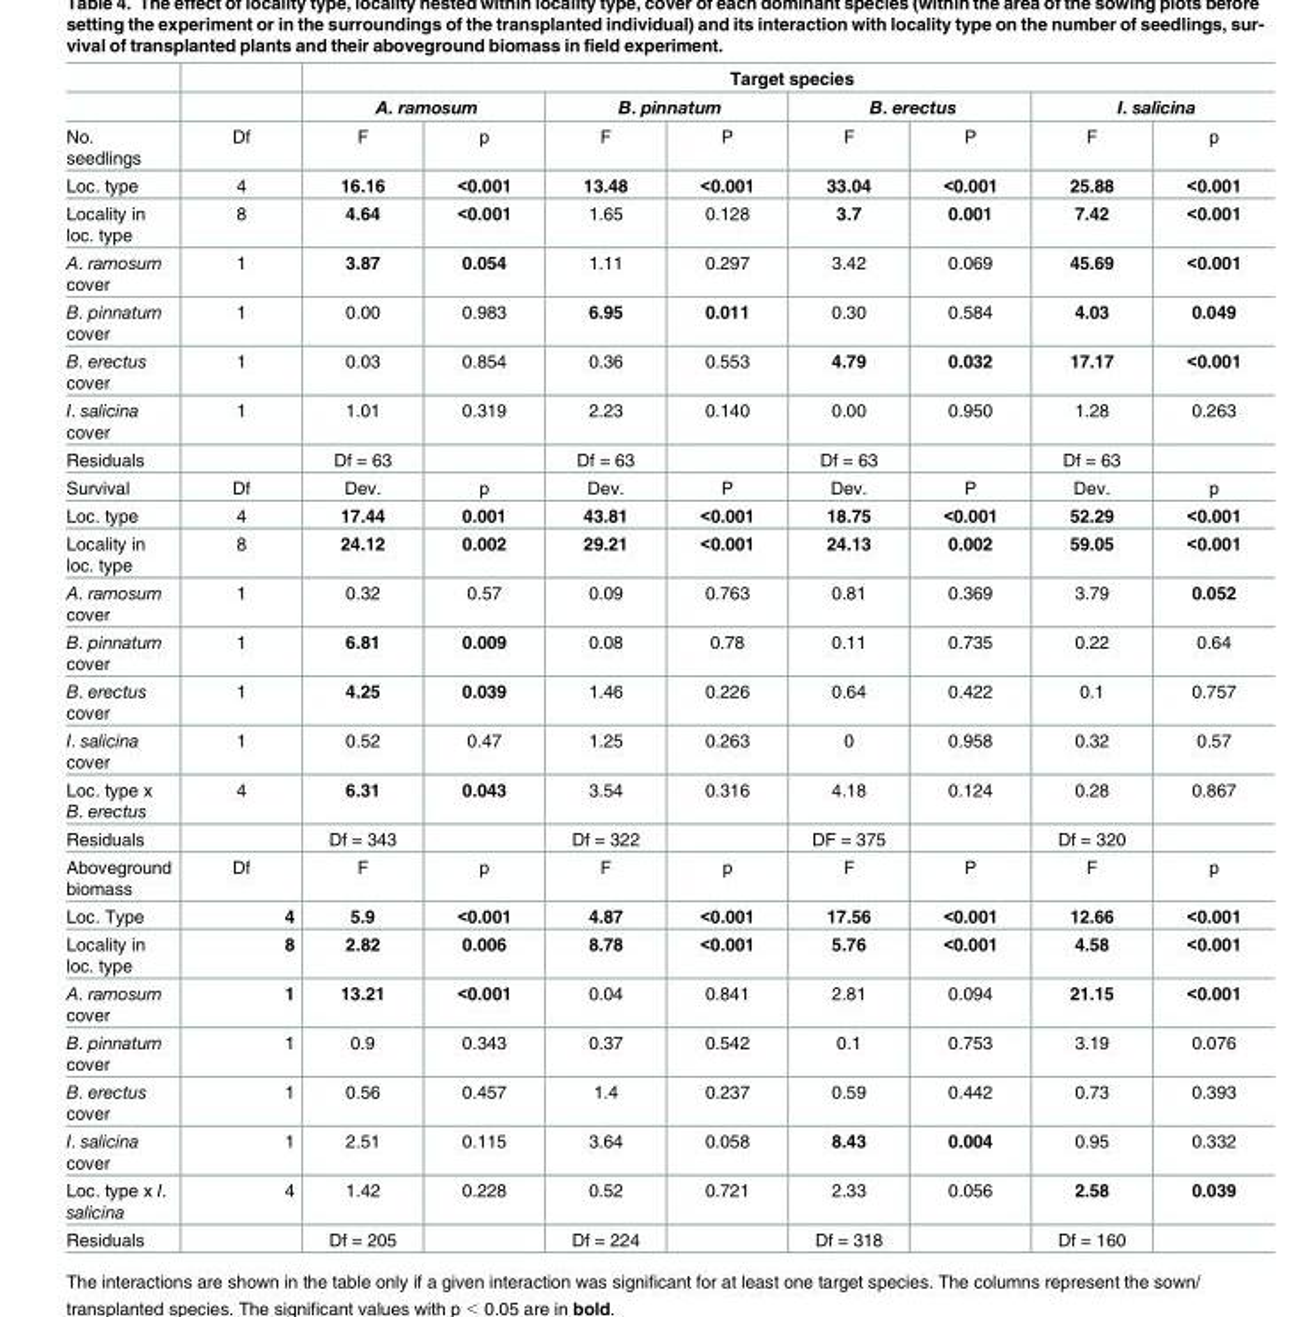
<table><thead><tr><td rowspan="3">No. seedlings</td><td rowspan="3">Df</td><td colspan="8">Target species</td></tr><tr><td colspan="2">A. ramosum</td><td colspan="2">B. pinnatum</td><td colspan="2">B. erectus</td><td colspan="2">I. salicina</td></tr><tr><td>F</td><td>p</td><td>F</td><td>P</td><td>F</td><td>P</td><td>F</td><td>p</td></tr></thead><tbody><tr><td>Loc. type</td><td>4</td><td>16.16</td><td>&lt;0.001</td><td>13.48</td><td>&lt;0.001</td><td>33.04</td><td>&lt;0.001</td><td>25.88</td><td>&lt;0.001</td></tr><tr><td>Locality in loc. type</td><td>8</td><td>4.64</td><td>&lt;0.001</td><td>1.65</td><td>0.128</td><td>3.7</td><td>0.001</td><td>7.42</td><td>&lt;0.001</td></tr><tr><td>A. ramosum cover</td><td>1</td><td>3.87</td><td>0.054</td><td>1.11</td><td>0.297</td><td>3.42</td><td>0.069</td><td>45.69</td><td>&lt;0.001</td></tr><tr><td>B. pinnatum cover</td><td>1</td><td>0.00</td><td>0.983</td><td>6.95</td><td>0.011</td><td>0.30</td><td>0.584</td><td>4.03</td><td>0.049</td></tr><tr><td>B. erectus cover</td><td>1</td><td>0.03</td><td>0.854</td><td>0.36</td><td>0.553</td><td>4.79</td><td>0.032</td><td>17.17</td><td>&lt;0.001</td></tr><tr><td>I. salicina cover</td><td>1</td><td>1.01</td><td>0.319</td><td>2.23</td><td>0.140</td><td>0.00</td><td>0.950</td><td>1.28</td><td>0.263</td></tr><tr><td>Residuals</td><td></td><td>Df = 63</td><td></td><td>Df = 63</td><td></td><td>Df = 63</td><td></td><td>Df = 63</td><td></td></tr><tr><td>Survival</td><td>Df</td><td>Dev.</td><td>p</td><td>Dev.</td><td>P</td><td>Dev.</td><td>P</td><td>Dev.</td><td>p</td></tr><tr><td>Loc. type</td><td>4</td><td>17.44</td><td>0.001</td><td>43.81</td><td>&lt;0.001</td><td>18.75</td><td>&lt;0.001</td><td>52.29</td><td>&lt;0.001</td></tr><tr><td>Locality in loc. type</td><td>8</td><td>24.12</td><td>0.002</td><td>29.21</td><td>&lt;0.001</td><td>24.13</td><td>0.002</td><td>59.05</td><td>&lt;0.001</td></tr><tr><td>A. ramosum cover</td><td>1</td><td>0.32</td><td>0.57</td><td>0.09</td><td>0.763</td><td>0.81</td><td>0.369</td><td>3.79</td><td>0.052</td></tr><tr><td>B. pinnatum cover</td><td>1</td><td>6.81</td><td>0.009</td><td>0.08</td><td>0.78</td><td>0.11</td><td>0.735</td><td>0.22</td><td>0.64</td></tr><tr><td>B. erectus cover</td><td>1</td><td>4.25</td><td>0.039</td><td>1.46</td><td>0.226</td><td>0.64</td><td>0.422</td><td>0.1</td><td>0.757</td></tr><tr><td>I. salicina cover</td><td>1</td><td>0.52</td><td>0.47</td><td>1.25</td><td>0.263</td><td>0</td><td>0.958</td><td>0.32</td><td>0.57</td></tr><tr><td>Loc. type x B. erectus</td><td>4</td><td>6.31</td><td>0.043</td><td>3.54</td><td>0.316</td><td>4.18</td><td>0.124</td><td>0.28</td><td>0.867</td></tr><tr><td>Residuals</td><td></td><td>Df = 343</td><td></td><td>Df = 322</td><td></td><td>DF = 375</td><td></td><td>Df = 320</td><td></td></tr><tr><td>Aboveground biomass</td><td>Df</td><td>F</td><td>p</td><td>F</td><td>p</td><td>F</td><td>P</td><td>F</td><td>p</td></tr><tr><td>Loc. Type</td><td>4</td><td>5.9</td><td>&lt;0.001</td><td>4.87</td><td>&lt;0.001</td><td>17.56</td><td>&lt;0.001</td><td>12.66</td><td>&lt;0.001</td></tr><tr><td>Locality in loc. type</td><td>8</td><td>2.82</td><td>0.006</td><td>8.78</td><td>&lt;0.001</td><td>5.76</td><td>&lt;0.001</td><td>4.58</td><td>&lt;0.001</td></tr><tr><td>A. ramosum cover</td><td>1</td><td>13.21</td><td>&lt;0.001</td><td>0.04</td><td>0.841</td><td>2.81</td><td>0.094</td><td>21.15</td><td>&lt;0.001</td></tr><tr><td>B. pinnatum cover</td><td>1</td><td>0.9</td><td>0.343</td><td>0.37</td><td>0.542</td><td>0.1</td><td>0.753</td><td>3.19</td><td>0.076</td></tr><tr><td>B. erectus cover</td><td>1</td><td>0.56</td><td>0.457</td><td>1.4</td><td>0.237</td><td>0.59</td><td>0.442</td><td>0.73</td><td>0.393</td></tr><tr><td>I. salicina cover</td><td>1</td><td>2.51</td><td>0.115</td><td>3.64</td><td>0.058</td><td>8.43</td><td>0.004</td><td>0.95</td><td>0.332</td></tr><tr><td>Loc. type x I. salicina</td><td>4</td><td>1.42</td><td>0.228</td><td>0.52</td><td>0.721</td><td>2.33</td><td>0.056</td><td>2.58</td><td>0.039</td></tr><tr><td>Residuals</td><td></td><td>Df = 205</td><td></td><td>Df = 224</td><td></td><td>Df = 318</td><td></td><td>Df = 160</td><td></td></tr></tbody></table>